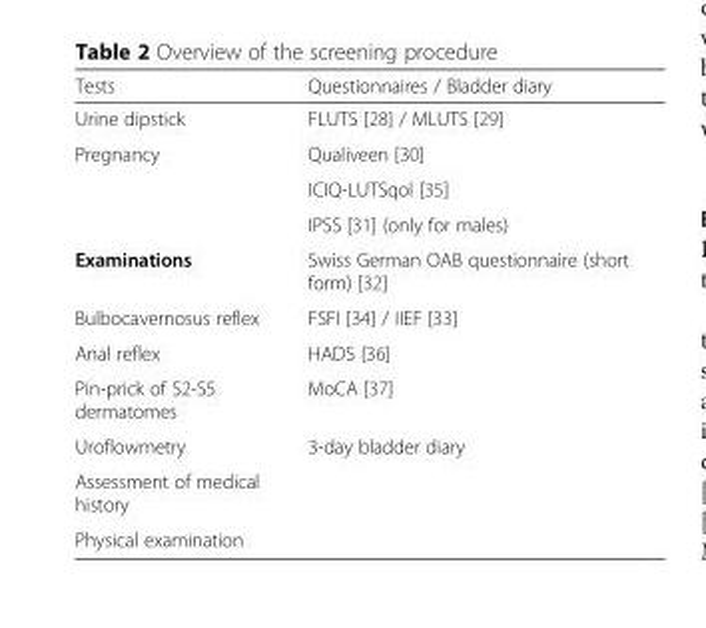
<table><thead><tr><td>Tests</td><td>Questionnaires / Bladder diary</td></tr></thead><tbody><tr><td>Urine dipstick</td><td>FLUTS [28] / MLUTS [29]</td></tr><tr><td rowspan="3">Pregnancy</td><td>Qualiveen [30]</td></tr><tr><td>ICIQ-LUTSqol [35]</td></tr><tr><td>IPSS [31] (only for males)</td></tr><tr><td>Examinations</td><td>Swiss German OAB questionnaire (short form) [32]</td></tr><tr><td>Bulbocavernosus reflex</td><td>FSFI [34] / IIEF [33]</td></tr><tr><td>Anal reflex</td><td>HADS [36]</td></tr><tr><td>Pin-prick of S2-S5 dermatomes</td><td>MoCA [37]</td></tr><tr><td>Uroflowmetry</td><td>3-day bladder diary</td></tr><tr><td colspan="2">Assessment of medical history</td></tr><tr><td>Physical examination</td><td></td></tr></tbody></table>